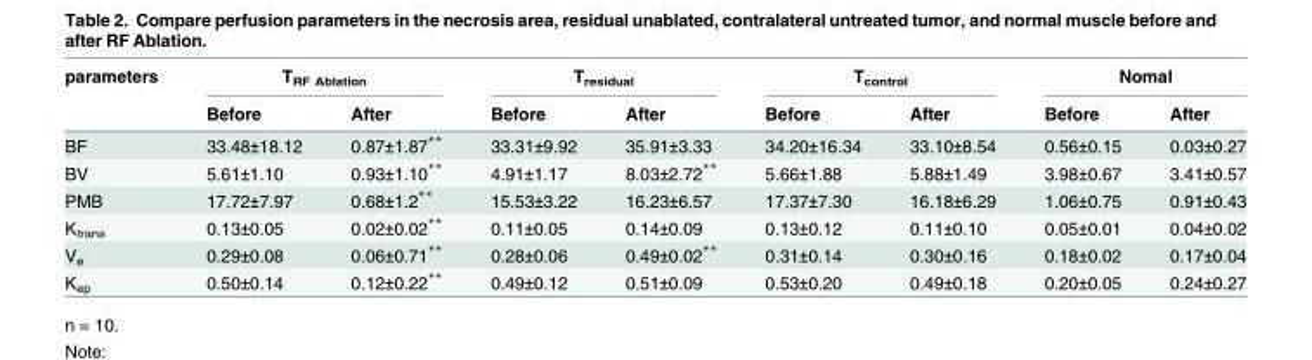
<table><thead><tr><td rowspan="2">parameters</td><td colspan="2">T<sub>RF Ablation</sub></td><td colspan="2">T<sub>residual</sub></td><td colspan="2">T<sub>control</sub></td><td colspan="2">Nomal</td></tr><tr><td>Before</td><td>After</td><td>Before</td><td>After</td><td>Before</td><td>After</td><td>Before</td><td>After</td></tr></thead><tbody><tr><td>BF</td><td>33.48±18.12</td><td>0.87±1.87**</td><td>33.31±9.92</td><td>35.91±3.33</td><td>34.20±16.34</td><td>33.10±8.54</td><td>0.56±0.15</td><td>0.03±0.27</td></tr><tr><td>BV</td><td>5.61±1.10</td><td>0.93±1.10**</td><td>4.91±1.17</td><td>8.03±2.72**</td><td>5.66±1.88</td><td>5.88±1.49</td><td>3.98±0.67</td><td>3.41±0.57</td></tr><tr><td>PMB</td><td>17.72±7.97</td><td>0.68±1.2**</td><td>15.53±3.22</td><td>16.23±6.57</td><td>17.37±7.30</td><td>16.18±6.29</td><td>1.06±0.75</td><td>0.91±0.43</td></tr><tr><td>K<sub>trans</sub></td><td>0.13±0.05</td><td>0.02±0.02**</td><td>0.11±0.05</td><td>0.14±0.09</td><td>0.13±0.12</td><td>0.11±0.10</td><td>0.05±0.01</td><td>0.04±0.02</td></tr><tr><td>V<sub>e</sub></td><td>0.29±0.08</td><td>0.06±0.71**</td><td>0.28±0.06</td><td>0.49±0.02**</td><td>0.31±0.14</td><td>0.30±0.16</td><td>0.18±0.02</td><td>0.17±0.04</td></tr><tr><td>K<sub>ep</sub></td><td>0.50±0.14</td><td>0.12±0.22**</td><td>0.49±0.12</td><td>0.51±0.09</td><td>0.53±0.20</td><td>0.49±0.18</td><td>0.20±0.05</td><td>0.24±0.27</td></tr></tbody></table>